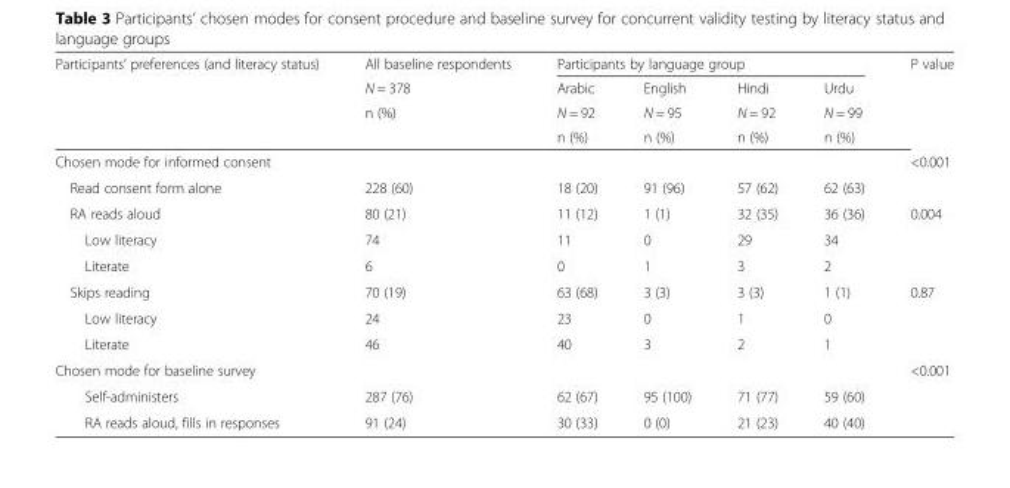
<table><thead><tr><td rowspan="4">Participants’ preferences (and literacy status)</td><td rowspan="4">All baseline respondents N = 378 n (%)</td><td colspan="4">Participants by language group</td><td rowspan="4">P value</td></tr><tr><td rowspan="3">Arabic N = 92 n (%)</td><td rowspan="3">English N = 95 n (%)</td><td rowspan="3">Hindi N = 92 n (%)</td><td rowspan="3">Urdu N = 99 n (%)</td></tr><tr></tr><tr></tr></thead><tbody><tr><td>Chosen mode for informed consent</td><td></td><td></td><td></td><td></td><td></td><td>&lt;0.001</td></tr><tr><td>Read consent form alone</td><td>228 (60)</td><td>18 (20)</td><td>91 (96)</td><td>57 (62)</td><td>62 (63)</td><td></td></tr><tr><td>RA reads aloud</td><td>80 (21)</td><td>11 (12)</td><td>1 (1)</td><td>32 (35)</td><td>36 (36)</td><td>0.004</td></tr><tr><td>Low literacy</td><td>74</td><td>11</td><td>0</td><td>29</td><td>34</td><td></td></tr><tr><td>Literate</td><td>6</td><td>0</td><td>1</td><td>3</td><td>2</td><td></td></tr><tr><td>Skips reading</td><td>70 (19)</td><td>63 (68)</td><td>3 (3)</td><td>3 (3)</td><td>1 (1)</td><td>0.87</td></tr><tr><td>Low literacy</td><td>24</td><td>23</td><td>0</td><td>1</td><td>0</td><td></td></tr><tr><td>Literate</td><td>46</td><td>40</td><td>3</td><td>2</td><td>1</td><td></td></tr><tr><td>Chosen mode for baseline survey</td><td></td><td></td><td></td><td></td><td></td><td>&lt;0.001</td></tr><tr><td>Self-administers</td><td>287 (76)</td><td>62 (67)</td><td>95 (100)</td><td>71 (77)</td><td>59 (60)</td><td></td></tr><tr><td>RA reads aloud, fills in responses</td><td>91 (24)</td><td>30 (33)</td><td>0 (0)</td><td>21 (23)</td><td>40 (40)</td><td></td></tr></tbody></table>